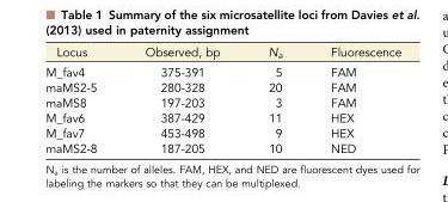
<table><thead><tr><td>Locus</td><td>Observed, bp</td><td>N<sub>a</sub></td><td>Fluorescence</td></tr></thead><tbody><tr><td>M_fav4</td><td>375-391</td><td>5</td><td>FAM</td></tr><tr><td>maMS2-5</td><td>280-328</td><td>20</td><td>FAM</td></tr><tr><td>maMS8</td><td>197-203</td><td>3</td><td>FAM</td></tr><tr><td>M_fav6</td><td>387-429</td><td>11</td><td>HEX</td></tr><tr><td>M_fav7</td><td>453-498</td><td>9</td><td>HEX</td></tr><tr><td>maMS2-8</td><td>187-205</td><td>10</td><td>NED</td></tr></tbody></table>